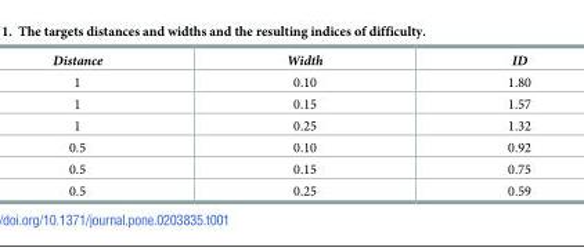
<table><thead><tr><td>Distance</td><td>Width</td><td>ID</td></tr></thead><tbody><tr><td>1</td><td>0.10</td><td>1.80</td></tr><tr><td>1</td><td>0.15</td><td>1.57</td></tr><tr><td>1</td><td>0.25</td><td>1.32</td></tr><tr><td>0.5</td><td>0.10</td><td>0.92</td></tr><tr><td>0.5</td><td>0.15</td><td>0.75</td></tr><tr><td>0.5</td><td>0.25</td><td>0.59</td></tr></tbody></table>